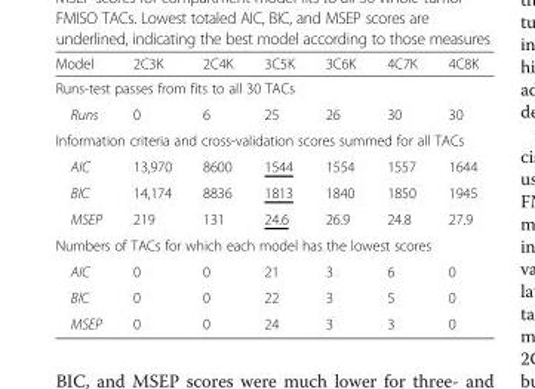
<table><thead><tr><td>Model</td><td>2C3K</td><td>2C4K</td><td>3C5K</td><td>3C6K</td><td>4C7K</td><td>4C8K</td></tr></thead><tbody><tr><td colspan="7">Runs-test passes from fits to all 30 TACs</td></tr><tr><td>Runs</td><td>0</td><td>6</td><td>25</td><td>26</td><td>30</td><td>30</td></tr><tr><td colspan="7">Information criteria and cross-validation scores summed for all TACs</td></tr><tr><td>AIC</td><td>13,970</td><td>8600</td><td>1544</td><td>1554</td><td>1557</td><td>1644</td></tr><tr><td>BIC</td><td>14,174</td><td>8836</td><td>1813</td><td>1840</td><td>1850</td><td>1945</td></tr><tr><td>MSEP</td><td>219</td><td>131</td><td>24.6</td><td>26.9</td><td>24.8</td><td>27.9</td></tr><tr><td colspan="7">Numbers of TACs for which each model has the lowest scores</td></tr><tr><td>AIC</td><td>0</td><td>0</td><td>21</td><td>3</td><td>6</td><td>0</td></tr><tr><td>BIC</td><td>0</td><td>0</td><td>22</td><td>3</td><td>5</td><td>0</td></tr><tr><td>MSEP</td><td>0</td><td>0</td><td>24</td><td>3</td><td>3</td><td>0</td></tr></tbody></table>